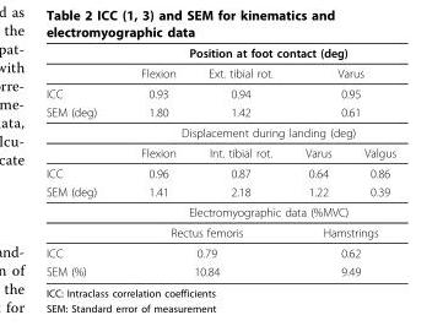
<table><thead><tr><td></td><td colspan="4">Position at foot contact (deg)</td></tr></thead><tbody><tr><td></td><td>Flexion</td><td>Ext. tibial rot.</td><td colspan="2">Varus</td></tr><tr><td>ICC</td><td>0.93</td><td>0.94</td><td colspan="2">0.95</td></tr><tr><td rowspan="3">SEM (deg)</td><td>1.80</td><td>1.42</td><td colspan="2">0.61</td></tr><tr><td colspan="4">Displacement during landing (deg)</td></tr><tr><td>Flexion</td><td>Int. tibial rot.</td><td>Varus</td><td>Valgus</td></tr><tr><td>ICC</td><td>0.96</td><td>0.87</td><td>0.64</td><td>0.86</td></tr><tr><td rowspan="3">SEM (deg)</td><td>1.41</td><td>2.18</td><td>1.22</td><td>0.39</td></tr><tr><td colspan="4">Electromyographic data (%MVC)</td></tr><tr><td colspan="2">Rectus femoris</td><td colspan="2">Hamstrings</td></tr><tr><td>ICC</td><td colspan="2">0.79</td><td colspan="2">0.62</td></tr><tr><td>SEM (%)</td><td colspan="2">10.84</td><td colspan="2">9.49</td></tr></tbody></table>